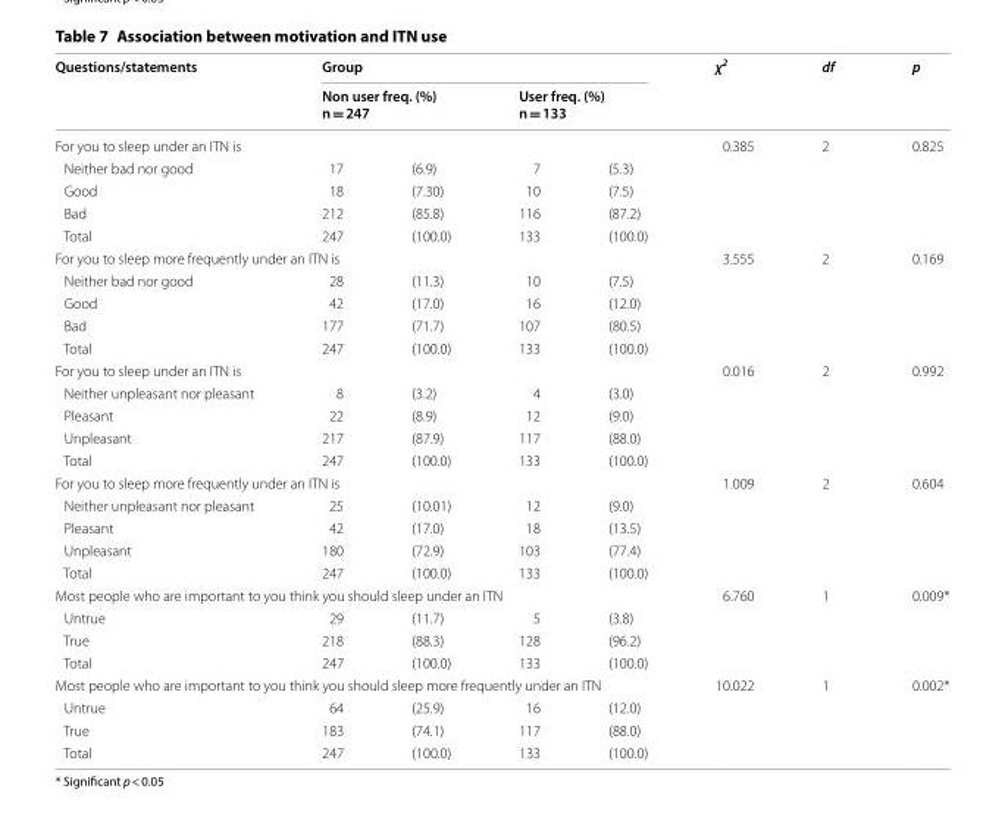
<table><thead><tr><td rowspan="2">Questions/statements</td><td colspan="4">Group</td><td rowspan="4">χ<sup>2</sup> 0.385</td><td rowspan="4">df 2</td><td rowspan="4">p 0.825</td></tr><tr><td colspan="2">Non user freq. (%) n = 247</td><td colspan="2">User freq. (%) n = 133</td></tr><tr><td colspan="5">For you to sleep under an ITN is</td></tr><tr><td>Neither bad nor good</td><td>17</td><td>(6.9)</td><td>7</td><td>(5.3)</td></tr></thead><tbody><tr><td>Good</td><td>18</td><td>(7.30)</td><td>10</td><td>(7.5)</td><td></td><td></td><td></td></tr><tr><td>Bad</td><td>212</td><td>(85.8)</td><td>116</td><td>(87.2)</td><td></td><td></td><td></td></tr><tr><td>Total</td><td>247</td><td>(100.0)</td><td>133</td><td>(100.0)</td><td></td><td></td><td></td></tr><tr><td colspan="5">For you to sleep more frequently under an ITN is</td><td>3.555</td><td>2</td><td>0.169</td></tr><tr><td>Neither bad nor good</td><td>28</td><td>(11.3)</td><td>10</td><td>(7.5)</td><td></td><td></td><td></td></tr><tr><td>Good</td><td>42</td><td>(17.0)</td><td>16</td><td>(12.0)</td><td></td><td></td><td></td></tr><tr><td>Bad</td><td>177</td><td>(71.7)</td><td>107</td><td>(80.5)</td><td></td><td></td><td></td></tr><tr><td>Total</td><td>247</td><td>(100.0)</td><td>133</td><td>(100.0)</td><td></td><td></td><td></td></tr><tr><td colspan="5">For you to sleep under an ITN is</td><td>0.016</td><td>2</td><td>0.992</td></tr><tr><td>Neither unpleasant nor pleasant</td><td>8</td><td>(3.2)</td><td>4</td><td>(3.0)</td><td></td><td></td><td></td></tr><tr><td>Pleasant</td><td>22</td><td>(8.9)</td><td>12</td><td>(9.0)</td><td></td><td></td><td></td></tr><tr><td>Unpleasant</td><td>217</td><td>(87.9)</td><td>117</td><td>(88.0)</td><td></td><td></td><td></td></tr><tr><td>Total</td><td>247</td><td>(100.0)</td><td>133</td><td>(100.0)</td><td></td><td></td><td></td></tr><tr><td colspan="5">For you to sleep more frequently under an ITN is</td><td>1.009</td><td>2</td><td>0.604</td></tr><tr><td>Neither unpleasant nor pleasant</td><td>25</td><td>(10.01)</td><td>12</td><td>(9.0)</td><td></td><td></td><td></td></tr><tr><td>Pleasant</td><td>42</td><td>(17.0)</td><td>18</td><td>(13.5)</td><td></td><td></td><td></td></tr><tr><td>Unpleasant</td><td>180</td><td>(72.9)</td><td>103</td><td>(77.4)</td><td></td><td></td><td></td></tr><tr><td>Total</td><td>247</td><td>(100.0)</td><td>133</td><td>(100.0)</td><td></td><td></td><td></td></tr><tr><td colspan="5">Most people who are important to you think you should sleep under an ITN</td><td>6.760</td><td>1</td><td>0.009*</td></tr><tr><td>Untrue</td><td>29</td><td>(11.7)</td><td>5</td><td>(3.8)</td><td></td><td></td><td></td></tr><tr><td>True</td><td>218</td><td>(88.3)</td><td>128</td><td>(96.2)</td><td></td><td></td><td></td></tr><tr><td>Total</td><td>247</td><td>(100.0)</td><td>133</td><td>(100.0)</td><td></td><td></td><td></td></tr><tr><td colspan="5">Most people who are important to you think you should sleep more frequently under an ITN</td><td>10.022</td><td>1</td><td>0.002*</td></tr><tr><td>Untrue</td><td>64</td><td>(25.9)</td><td>16</td><td>(12.0)</td><td></td><td></td><td></td></tr><tr><td>True</td><td>183</td><td>(74.1)</td><td>117</td><td>(88.0)</td><td></td><td></td><td></td></tr><tr><td>Total</td><td>247</td><td>(100.0)</td><td>133</td><td>(100.0)</td><td></td><td></td><td></td></tr></tbody></table>